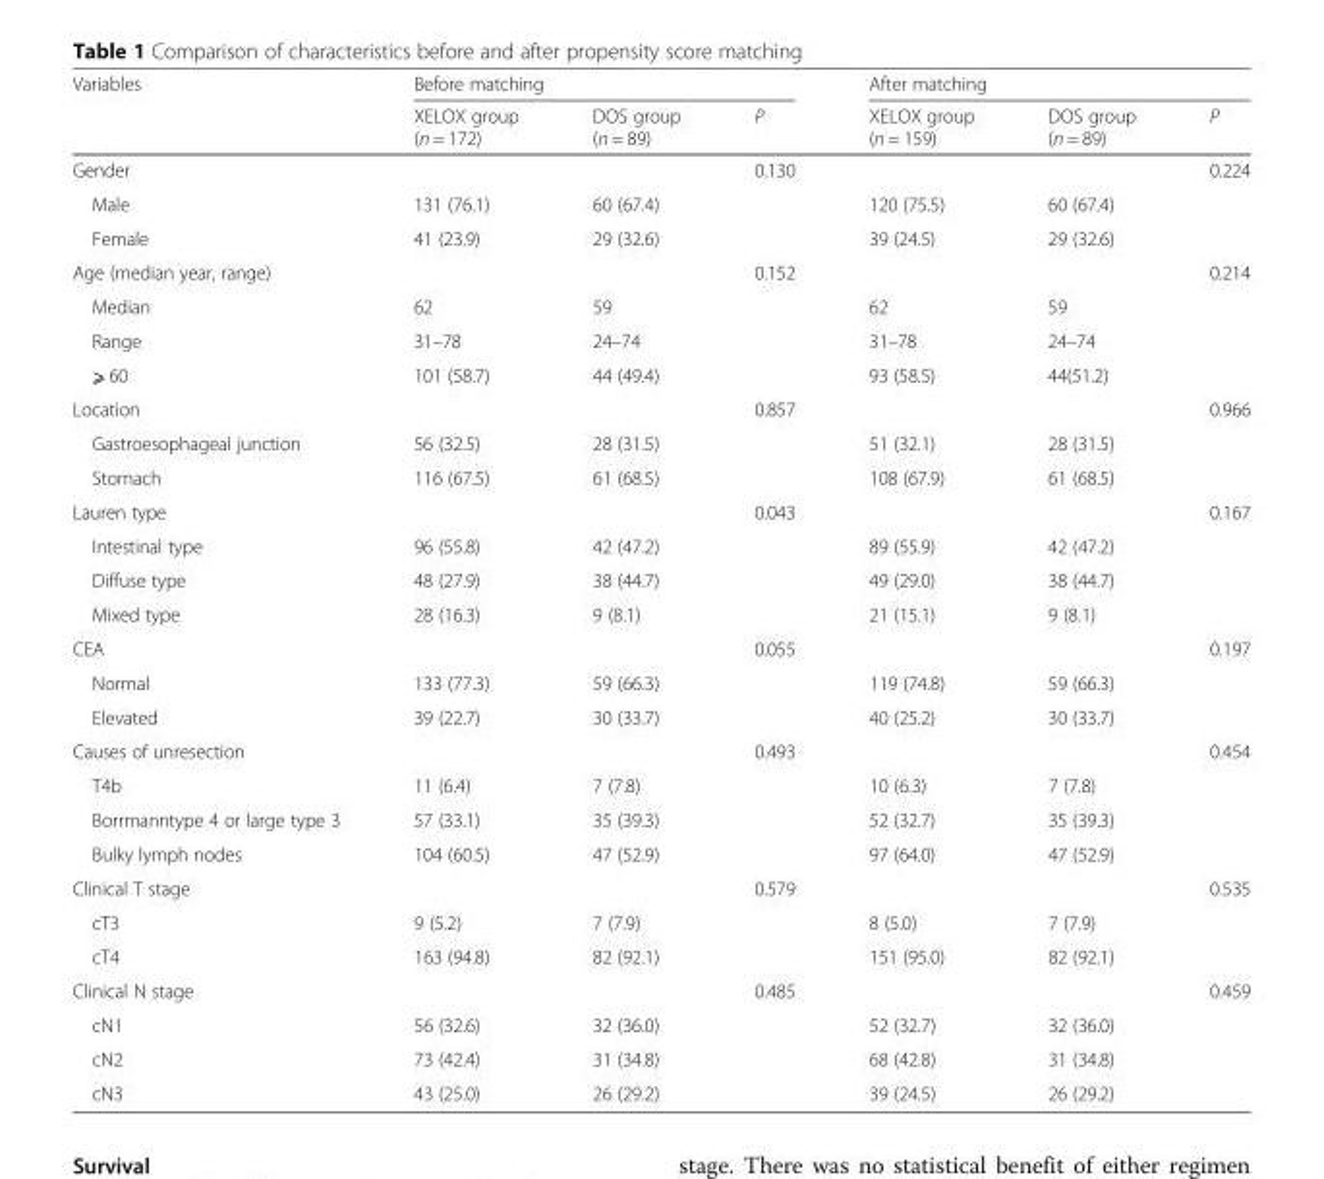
<table><thead><tr><td rowspan="2">Variables</td><td colspan="3">Before matching</td><td colspan="3">After matching</td></tr><tr><td>XELOX group (n = 172)</td><td>DOS group (n = 89)</td><td>P</td><td>XELOX group (n = 159)</td><td>DOS group (n = 89)</td><td>P</td></tr></thead><tbody><tr><td>Gender</td><td></td><td></td><td>0.130</td><td></td><td></td><td>0.224</td></tr><tr><td>Male</td><td>131 (76.1)</td><td>60 (67.4)</td><td></td><td>120 (75.5)</td><td>60 (67.4)</td><td></td></tr><tr><td>Female</td><td>41 (23.9)</td><td>29 (32.6)</td><td></td><td>39 (24.5)</td><td>29 (32.6)</td><td></td></tr><tr><td>Age (median year, range)</td><td></td><td></td><td>0.152</td><td></td><td></td><td>0.214</td></tr><tr><td>Median</td><td>62</td><td>59</td><td></td><td>62</td><td>59</td><td></td></tr><tr><td>Range</td><td>31–78</td><td>24–74</td><td></td><td>31–78</td><td>24–74</td><td></td></tr><tr><td>⩾ 60</td><td>101 (58.7)</td><td>44 (49.4)</td><td></td><td>93 (58.5)</td><td>44(51.2)</td><td></td></tr><tr><td>Location</td><td></td><td></td><td>0.857</td><td></td><td></td><td>0.966</td></tr><tr><td>Gastroesophageal junction</td><td>56 (32.5)</td><td>28 (31.5)</td><td></td><td>51 (32.1)</td><td>28 (31.5)</td><td></td></tr><tr><td>Stomach</td><td>116 (67.5)</td><td>61 (68.5)</td><td></td><td>108 (67.9)</td><td>61 (68.5)</td><td></td></tr><tr><td>Lauren type</td><td></td><td></td><td>0.043</td><td></td><td></td><td>0.167</td></tr><tr><td>Intestinal type</td><td>96 (55.8)</td><td>42 (47.2)</td><td></td><td>89 (55.9)</td><td>42 (47.2)</td><td></td></tr><tr><td>Diffuse type</td><td>48 (27.9)</td><td>38 (44.7)</td><td></td><td>49 (29.0)</td><td>38 (44.7)</td><td></td></tr><tr><td>Mixed type</td><td>28 (16.3)</td><td>9 (8.1)</td><td></td><td>21 (15.1)</td><td>9 (8.1)</td><td></td></tr><tr><td>CEA</td><td></td><td></td><td>0.055</td><td></td><td></td><td>0.197</td></tr><tr><td>Normal</td><td>133 (77.3)</td><td>59 (66.3)</td><td></td><td>119 (74.8)</td><td>59 (66.3)</td><td></td></tr><tr><td>Elevated</td><td>39 (22.7)</td><td>30 (33.7)</td><td></td><td>40 (25.2)</td><td>30 (33.7)</td><td></td></tr><tr><td>Causes of unresection</td><td></td><td></td><td>0.493</td><td></td><td></td><td>0.454</td></tr><tr><td>T4b</td><td>11 (6.4)</td><td>7 (7.8)</td><td></td><td>10 (6.3)</td><td>7 (7.8)</td><td></td></tr><tr><td>Borrmanntype 4 or large type 3</td><td>57 (33.1)</td><td>35 (39.3)</td><td></td><td>52 (32.7)</td><td>35 (39.3)</td><td></td></tr><tr><td>Bulky lymph nodes</td><td>104 (60.5)</td><td>47 (52.9)</td><td></td><td>97 (64.0)</td><td>47 (52.9)</td><td></td></tr><tr><td>Clinical T stage</td><td></td><td></td><td>0.579</td><td></td><td></td><td>0.535</td></tr><tr><td>cT3</td><td>9 (5.2)</td><td>7 (7.9)</td><td></td><td>8 (5.0)</td><td>7 (7.9)</td><td></td></tr><tr><td>cT4</td><td>163 (94.8)</td><td>82 (92.1)</td><td></td><td>151 (95.0)</td><td>82 (92.1)</td><td></td></tr><tr><td>Clinical N stage</td><td></td><td></td><td>0.485</td><td></td><td></td><td>0.459</td></tr><tr><td>cN1</td><td>56 (32.6)</td><td>32 (36.0)</td><td></td><td>52 (32.7)</td><td>32 (36.0)</td><td></td></tr><tr><td>cN2</td><td>73 (42.4)</td><td>31 (34.8)</td><td></td><td>68 (42.8)</td><td>31 (34.8)</td><td></td></tr><tr><td>cN3</td><td>43 (25.0)</td><td>26 (29.2)</td><td></td><td>39 (24.5)</td><td>26 (29.2)</td><td></td></tr></tbody></table>